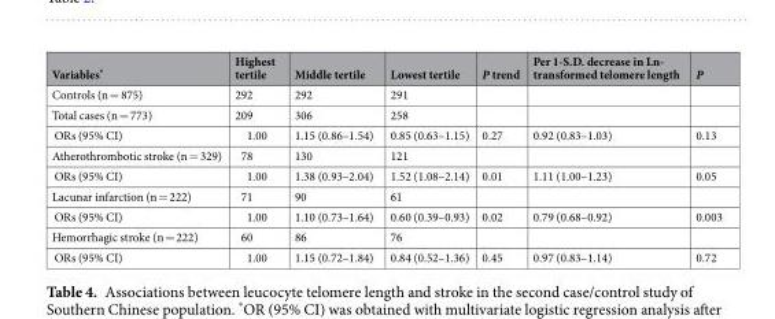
<table><thead><tr><td>Variables*</td><td>Highest tertile</td><td>Middle tertile</td><td>Lowest tertile</td><td>P trend</td><td>Per 1-S.D. decrease in Ln- transformed telomere length</td><td>P</td></tr></thead><tbody><tr><td>Controls (n = 875)</td><td>292</td><td>292</td><td>291</td><td></td><td></td><td></td></tr><tr><td>Total cases (n = 773)</td><td>209</td><td>306</td><td>258</td><td></td><td></td><td></td></tr><tr><td>ORs (95% CI)</td><td>1.00</td><td>1.15 (0.86–1.54)</td><td>0.85 (0.63–1.15)</td><td>0.27</td><td>0.92 (0.83–1.03)</td><td>0.13</td></tr><tr><td>Atherothrombotic stroke (n = 329)</td><td>78</td><td>130</td><td>121</td><td></td><td></td><td></td></tr><tr><td>ORs (95% CI)</td><td>1.00</td><td>1.38 (0.93–2.04)</td><td>1.52 (1.08–2.14)</td><td>0.01</td><td>1.11 (1.00–1.23)</td><td>0.05</td></tr><tr><td>Lacunar infarction (n = 222)</td><td>71</td><td>90</td><td>61</td><td></td><td></td><td></td></tr><tr><td>ORs (95% CI)</td><td>1.00</td><td>1.10 (0.73–1.64)</td><td>0.60 (0.39–0.93)</td><td>0.02</td><td>0.79 (0.68–0.92)</td><td>0.003</td></tr><tr><td>Hemorrhagic stroke (n = 222)</td><td>60</td><td>86</td><td>76</td><td></td><td></td><td></td></tr><tr><td>ORs (95% CI)</td><td>1.00</td><td>1.15 (0.72–1.84)</td><td>0.84 (0.52–1.36)</td><td>0.45</td><td>0.97 (0.83–1.14)</td><td>0.72</td></tr></tbody></table>